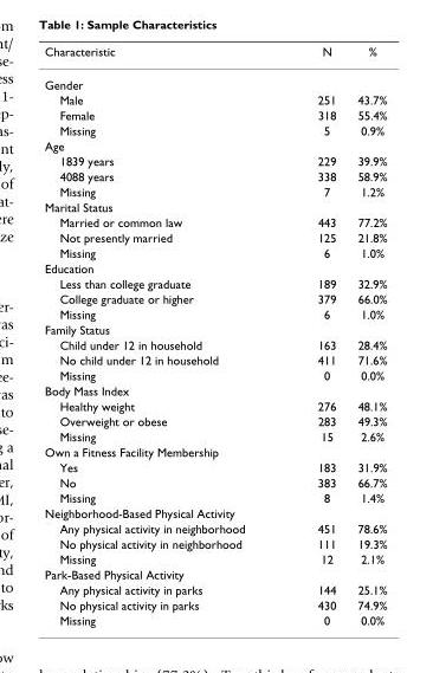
<table><thead><tr><td>Characteristic</td><td>N</td><td>%</td></tr></thead><tbody><tr><td colspan="3">Gender</td></tr><tr><td>Male</td><td>251</td><td>43.7%</td></tr><tr><td>Female</td><td>318</td><td>55.4%</td></tr><tr><td>Missing</td><td>5</td><td>0.9%</td></tr><tr><td colspan="3">Age</td></tr><tr><td>1839 years</td><td>229</td><td>39.9%</td></tr><tr><td>4088 years</td><td>338</td><td>58.9%</td></tr><tr><td>Missing</td><td>7</td><td>1.2%</td></tr><tr><td colspan="3">Marital Status</td></tr><tr><td>Married or common law</td><td>443</td><td>77.2%</td></tr><tr><td>Not presently married</td><td>125</td><td>21.8%</td></tr><tr><td>Missing</td><td>6</td><td>1.0%</td></tr><tr><td colspan="3">Education</td></tr><tr><td>Less than college graduate</td><td>189</td><td>32.9%</td></tr><tr><td>College graduate or higher</td><td>379</td><td>66.0%</td></tr><tr><td>Missing</td><td>6</td><td>1.0%</td></tr><tr><td colspan="3">Family Status</td></tr><tr><td>Child under 12 in household</td><td>163</td><td>28.4%</td></tr><tr><td>No child under 12 in household</td><td>411</td><td>71.6%</td></tr><tr><td>Missing</td><td>0</td><td>0.0%</td></tr><tr><td colspan="3">Body Mass Index</td></tr><tr><td>Healthy weight</td><td>276</td><td>48.1%</td></tr><tr><td>Overweight or obese</td><td>283</td><td>49.3%</td></tr><tr><td>Missing</td><td>15</td><td>2.6%</td></tr><tr><td colspan="3">Own a Fitness Facility Membership</td></tr><tr><td>Yes</td><td>183</td><td>31.9%</td></tr><tr><td>No</td><td>383</td><td>66.7%</td></tr><tr><td>Missing</td><td>8</td><td>1.4%</td></tr><tr><td colspan="3">Neighborhood-Based Physical Activity</td></tr><tr><td>Any physical activity in neighborhood</td><td>451</td><td>78.6%</td></tr><tr><td>No physical activity in neighborhood</td><td>111</td><td>19.3%</td></tr><tr><td>Missing</td><td>12</td><td>2.1%</td></tr><tr><td colspan="3">Park-Based Physical Activity</td></tr><tr><td>Any physical activity in parks</td><td>144</td><td>25.1%</td></tr><tr><td>No physical activity in parks</td><td>430</td><td>74.9%</td></tr><tr><td>Missing</td><td>0</td><td>0.0%</td></tr></tbody></table>